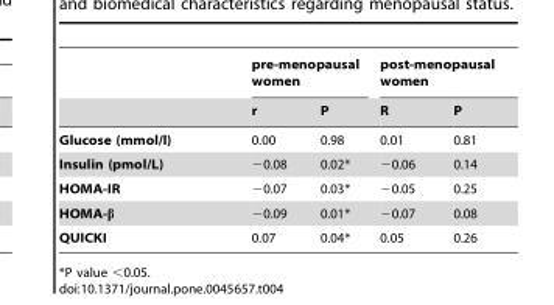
<table><thead><tr><td rowspan="2"></td><td colspan="2">pre-menopausal women</td><td colspan="2">post-menopausal women</td></tr><tr><td>r</td><td>P</td><td>R</td><td>P</td></tr></thead><tbody><tr><td>Glucose (mmol/l)</td><td>0.00</td><td>0.98</td><td>0.01</td><td>0.81</td></tr><tr><td>Insulin (pmol/L)</td><td>−0.08</td><td>0.02*</td><td>−0.06</td><td>0.14</td></tr><tr><td>HOMA-IR</td><td>−0.07</td><td>0.03*</td><td>−0.05</td><td>0.25</td></tr><tr><td>HOMA-β</td><td>−0.09</td><td>0.01*</td><td>−0.07</td><td>0.08</td></tr><tr><td>QUICKI</td><td>0.07</td><td>0.04*</td><td>0.05</td><td>0.26</td></tr></tbody></table>